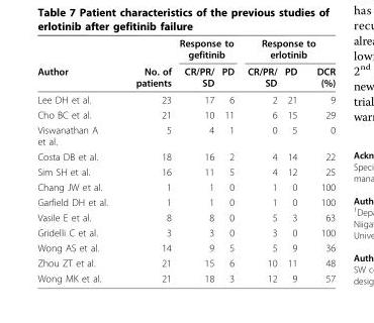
<table><thead><tr><td rowspan="2">Author</td><td rowspan="2">No. of patients</td><td colspan="2">Response to gefitinib</td><td colspan="3">Response to erlotinib</td></tr><tr><td>CR/PR/ SD</td><td>PD</td><td>CR/PR/ SD</td><td>PD</td><td>DCR (%)</td></tr></thead><tbody><tr><td>Lee DH et al.</td><td>23</td><td>17</td><td>6</td><td>2</td><td>21</td><td>9</td></tr><tr><td>Cho BC et al.</td><td>21</td><td>10</td><td>11</td><td>6</td><td>15</td><td>29</td></tr><tr><td>Viswanathan A et al.</td><td>5</td><td>4</td><td>1</td><td>0</td><td>5</td><td>0</td></tr><tr><td>Costa DB et al.</td><td>18</td><td>16</td><td>2</td><td>4</td><td>14</td><td>22</td></tr><tr><td>Sim SH et al.</td><td>16</td><td>11</td><td>5</td><td>4</td><td>12</td><td>25</td></tr><tr><td>Chang JW et al.</td><td>1</td><td>1</td><td>0</td><td>1</td><td>0</td><td>100</td></tr><tr><td>Garfield DH et al.</td><td>1</td><td>1</td><td>0</td><td>1</td><td>0</td><td>100</td></tr><tr><td>Vasile E et al.</td><td>8</td><td>8</td><td>0</td><td>5</td><td>3</td><td>63</td></tr><tr><td>Gridelli C et al.</td><td>3</td><td>3</td><td>0</td><td>3</td><td>0</td><td>100</td></tr><tr><td>Wong AS et al.</td><td>14</td><td>9</td><td>5</td><td>5</td><td>9</td><td>36</td></tr><tr><td>Zhou ZT et al.</td><td>21</td><td>15</td><td>6</td><td>10</td><td>11</td><td>48</td></tr><tr><td>Wong MK et al.</td><td>21</td><td>18</td><td>3</td><td>12</td><td>9</td><td>57</td></tr></tbody></table>